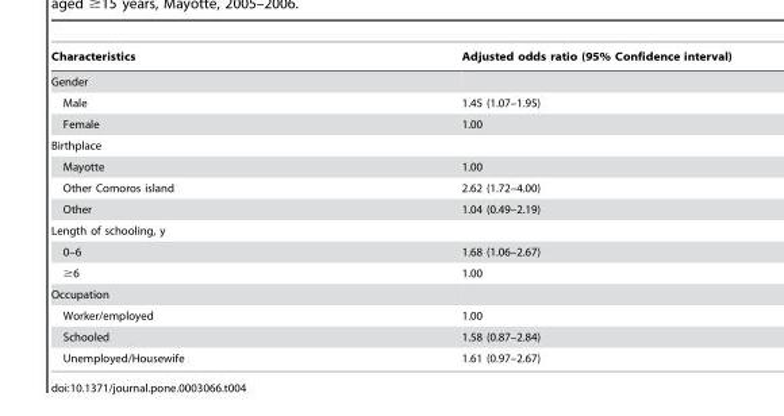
<table><thead><tr><td>Characteristics</td><td>Adjusted odds ratio (95% Confidence interval)</td></tr></thead><tbody><tr><td colspan="2">Gender</td></tr><tr><td>Male</td><td>1.45 (1.07–1.95)</td></tr><tr><td>Female</td><td>1.00</td></tr><tr><td colspan="2">Birthplace</td></tr><tr><td>Mayotte</td><td>1.00</td></tr><tr><td>Other Comoros island</td><td>2.62 (1.72–4.00)</td></tr><tr><td>Other</td><td>1.04 (0.49–2.19)</td></tr><tr><td colspan="2">Length of schooling, y</td></tr><tr><td>0–6</td><td>1.68 (1.06–2.67)</td></tr><tr><td>≥6</td><td>1.00</td></tr><tr><td colspan="2">Occupation</td></tr><tr><td>Worker/employed</td><td>1.00</td></tr><tr><td>Schooled</td><td>1.58 (0.87–2.84)</td></tr><tr><td>Unemployed/Housewife</td><td>1.61 (0.97–2.67)</td></tr></tbody></table>